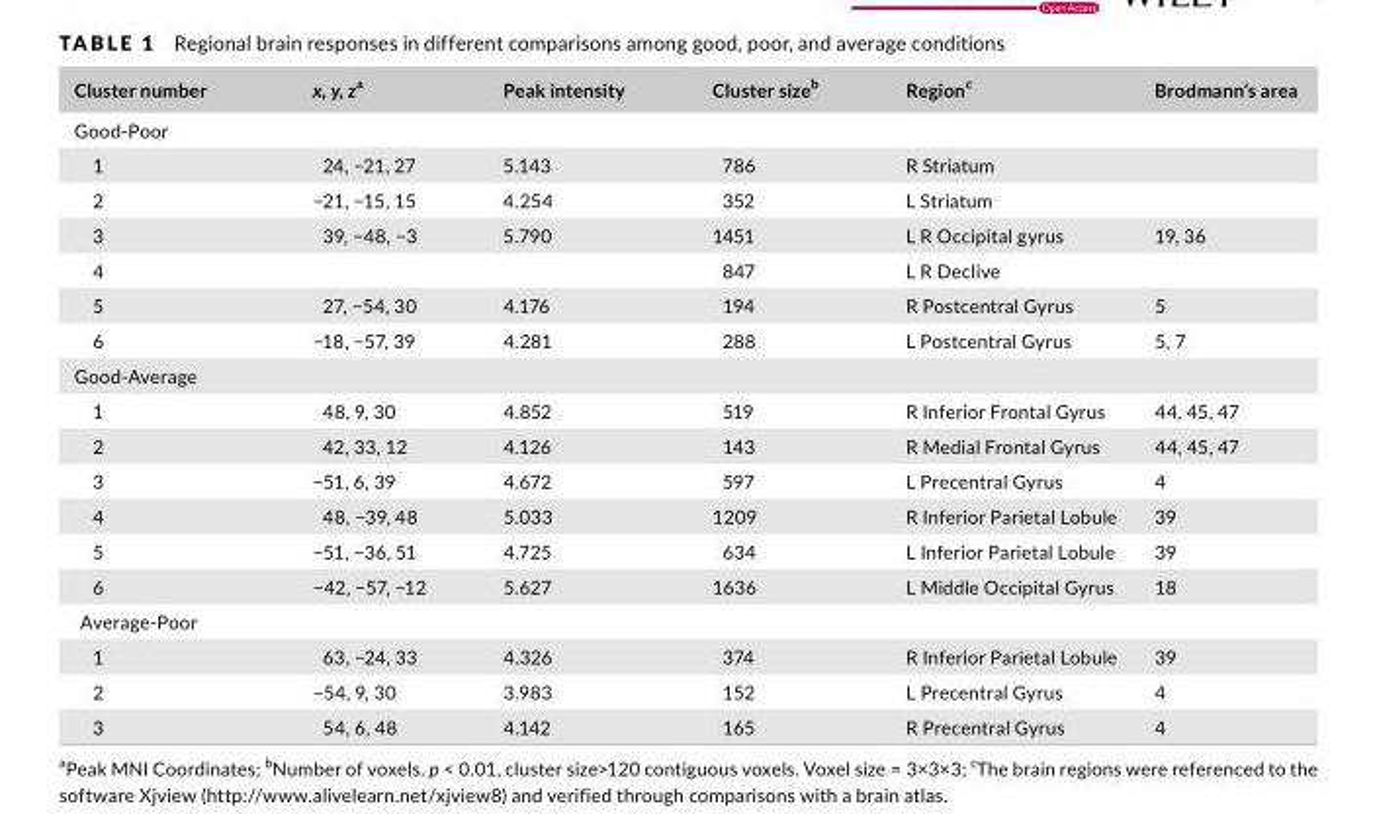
<table><thead><tr><td>Cluster number</td><td>x, y, za</td><td>Peak intensity</td><td>Cluster size<sup>b</sup></td><td>Region<sup>c</sup></td><td>Brodmann’s area</td></tr></thead><tbody><tr><td colspan="6">Good- Poor</td></tr><tr><td>1</td><td>24, −21, 27</td><td>5.143</td><td>786</td><td>R Striatum</td><td></td></tr><tr><td>2</td><td>−21, −15, 15</td><td>4.254</td><td>352</td><td>L Striatum</td><td></td></tr><tr><td>3</td><td>39, −48, −3</td><td>5.790</td><td>1451</td><td>L R Occipital gyrus</td><td>19, 36</td></tr><tr><td>4</td><td></td><td></td><td>847</td><td>L R Declive</td><td></td></tr><tr><td>5</td><td>27, −54, 30</td><td>4.176</td><td>194</td><td>R Postcentral Gyrus</td><td>5</td></tr><tr><td>6</td><td>−18, −57, 39</td><td>4.281</td><td>288</td><td>L Postcentral Gyrus</td><td>5, 7</td></tr><tr><td colspan="6">Good- Average</td></tr><tr><td>1</td><td>48, 9, 30</td><td>4.852</td><td>519</td><td>R Inferior Frontal Gyrus</td><td>44, 45, 47</td></tr><tr><td>2</td><td>42, 33, 12</td><td>4.126</td><td>143</td><td>R Medial Frontal Gyrus</td><td>44, 45, 47</td></tr><tr><td>3</td><td>−51, 6, 39</td><td>4.672</td><td>597</td><td>L Precentral Gyrus</td><td>4</td></tr><tr><td>4</td><td>48, −39, 48</td><td>5.033</td><td>1209</td><td>R Inferior Parietal Lobule</td><td>39</td></tr><tr><td>5</td><td>−51, −36, 51</td><td>4.725</td><td>634</td><td>L Inferior Parietal Lobule</td><td>39</td></tr><tr><td>6</td><td>−42, −57, −12</td><td>5.627</td><td>1636</td><td>L Middle Occipital Gyrus</td><td>18</td></tr><tr><td colspan="6">Average- Poor</td></tr><tr><td>1</td><td>63, −24, 33</td><td>4.326</td><td>374</td><td>R Inferior Parietal Lobule</td><td>39</td></tr><tr><td>2</td><td>−54, 9, 30</td><td>3.983</td><td>152</td><td>L Precentral Gyrus</td><td>4</td></tr><tr><td>3</td><td>54, 6, 48</td><td>4.142</td><td>165</td><td>R Precentral Gyrus</td><td>4</td></tr></tbody></table>